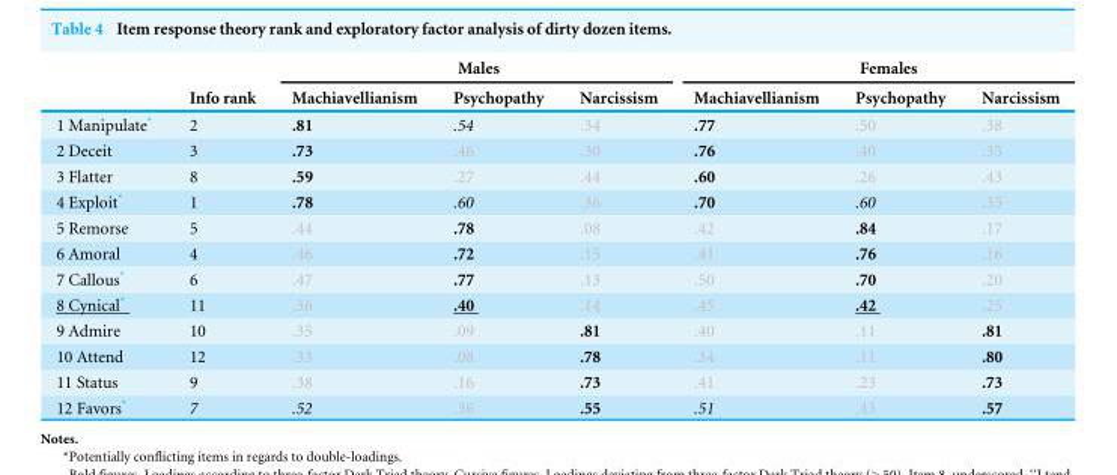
<table><thead><tr><td rowspan="2"></td><td rowspan="2">Info rank</td><td colspan="3">Males</td><td colspan="3">Females</td></tr><tr><td>Machiavellianism</td><td>Psychopathy</td><td>Narcissism</td><td>Machiavellianism</td><td>Psychopathy</td><td>Narcissism</td></tr></thead><tbody><tr><td>1 Manipulate*</td><td>2</td><td>.81</td><td>.54</td><td>.34</td><td>.77</td><td>.50</td><td>.38</td></tr><tr><td>2 Deceit</td><td>3</td><td>.73</td><td>.46</td><td>.30</td><td>.76</td><td>.40</td><td>.35</td></tr><tr><td>3 Flatter</td><td>8</td><td>.59</td><td>.27</td><td>.44</td><td>.60</td><td>.26</td><td>.43</td></tr><tr><td>4 Exploit*</td><td>1</td><td>.78</td><td>.60</td><td>.36</td><td>.70</td><td>.60</td><td>.35</td></tr><tr><td>5 Remorse</td><td>5</td><td>.44</td><td>.78</td><td>.08</td><td>.42</td><td>.84</td><td>.17</td></tr><tr><td>6 Amoral</td><td>4</td><td>.46</td><td>.72</td><td>.15</td><td>.41</td><td>.76</td><td>.16</td></tr><tr><td>7 Callous*</td><td>6</td><td>.47</td><td>.77</td><td>.13</td><td>.50</td><td>.70</td><td>.20</td></tr><tr><td>8 Cynical*</td><td>11</td><td>.36</td><td>.40</td><td>.14</td><td>.45</td><td>.42</td><td>.25</td></tr><tr><td>9 Admire</td><td>10</td><td>.35</td><td>.09</td><td>.81</td><td>.40</td><td>.11</td><td>.81</td></tr><tr><td>10 Attend</td><td>12</td><td>.33</td><td>.08</td><td>.78</td><td>.34</td><td>.11</td><td>.80</td></tr><tr><td>11 Status</td><td>9</td><td>.38</td><td>.16</td><td>.73</td><td>.41</td><td>.23</td><td>.73</td></tr><tr><td>12 Favors*</td><td>7</td><td>.52</td><td>.36</td><td>.55</td><td>.51</td><td>.43</td><td>.57</td></tr></tbody></table>